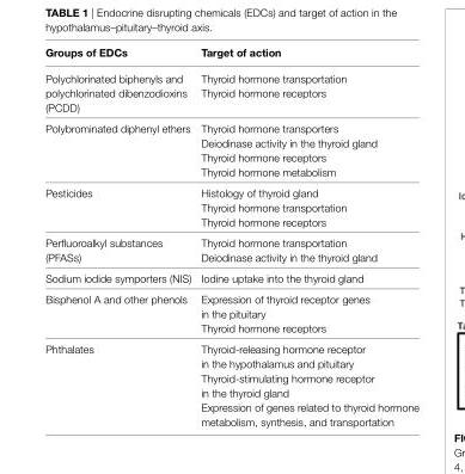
<table><thead><tr><td>groups of eDCs</td><td>Target of action</td></tr></thead><tbody><tr><td>Polychlorinated biphenyls and polychlorinated dibenzodioxins (PCDD)</td><td>Thyroid hormone transportation Thyroid hormone receptors</td></tr><tr><td>Polybrominated diphenyl ethers</td><td>Thyroid hormone transporters Deiodinase activity in the thyroid gland Thyroid hormone receptors Thyroid hormone metabolism</td></tr><tr><td>Pesticides</td><td>Histology of thyroid gland Thyroid hormone transportation Thyroid hormone receptors</td></tr><tr><td>Perfluoroalkyl substances (PFASs)</td><td>Thyroid hormone transportation Deiodinase activity in the thyroid gland</td></tr><tr><td>Sodium iodide symporters (NIS)</td><td>Iodine uptake into the thyroid gland</td></tr><tr><td>Bisphenol A and other phenols</td><td>Expression of thyroid receptor genes in the pituitary Thyroid hormone receptors</td></tr><tr><td>Phthalates</td><td>Thyroid-releasing hormone receptor in the hypothalamus and pituitary Thyroid-stimulating hormone receptor in the thyroid gland Expression of genes related to thyroid hormone metabolism, synthesis, and transportation</td></tr></tbody></table>